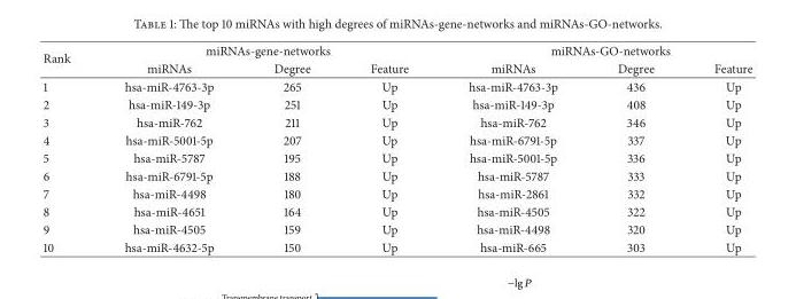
<table><thead><tr><td rowspan="2">Rank</td><td colspan="3">miRNAs-gene-networks</td><td colspan="3">miRNAs-GO-networks</td></tr><tr><td>miRNAs</td><td>Degree</td><td>Feature</td><td>miRNAs</td><td>Degree</td><td>Feature</td></tr></thead><tbody><tr><td>1</td><td>hsa-miR-4763-3p</td><td>265</td><td>Up</td><td>hsa-miR-4763-3p</td><td>436</td><td>Up</td></tr><tr><td>2</td><td>hsa-miR-149-3p</td><td>251</td><td>Up</td><td>hsa-miR-149-3p</td><td>408</td><td>Up</td></tr><tr><td>3</td><td>hsa-miR-762</td><td>211</td><td>Up</td><td>hsa-miR-762</td><td>346</td><td>Up</td></tr><tr><td>4</td><td>hsa-miR-5001-5p</td><td>207</td><td>Up</td><td>hsa-miR-6791-5p</td><td>337</td><td>Up</td></tr><tr><td>5</td><td>hsa-miR-5787</td><td>195</td><td>Up</td><td>hsa-miR-5001-5p</td><td>336</td><td>Up</td></tr><tr><td>6</td><td>hsa-miR-6791-5p</td><td>188</td><td>Up</td><td>hsa-miR-5787</td><td>333</td><td>Up</td></tr><tr><td>7</td><td>hsa-miR-4498</td><td>180</td><td>Up</td><td>hsa-miR-2861</td><td>332</td><td>Up</td></tr><tr><td>8</td><td>hsa-miR-4651</td><td>164</td><td>Up</td><td>hsa-miR-4505</td><td>322</td><td>Up</td></tr><tr><td>9</td><td>hsa-miR-4505</td><td>159</td><td>Up</td><td>hsa-miR-4498</td><td>320</td><td>Up</td></tr><tr><td>10</td><td>hsa-miR-4632-5p</td><td>150</td><td>Up</td><td>hsa-miR-665</td><td>303</td><td>Up</td></tr></tbody></table>